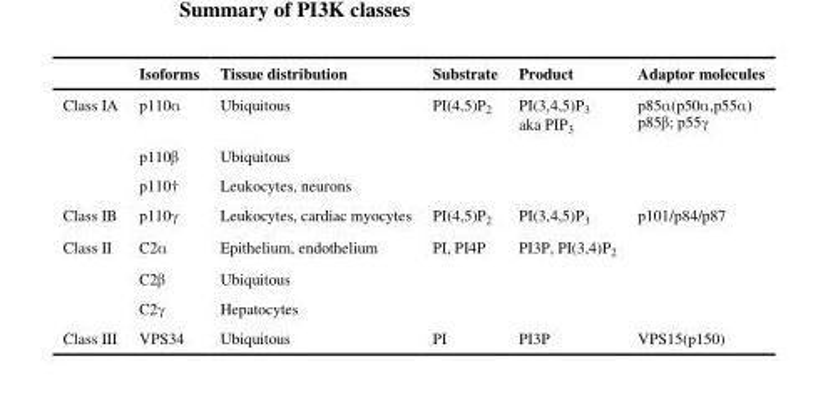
<table><thead><tr><td></td><td>Isoforms</td><td>Tissue distribution</td><td>Substrate</td><td>Product</td><td>Adaptor molecules</td></tr></thead><tbody><tr><td rowspan="3">Class IA</td><td>p110α</td><td>Ubiquitous</td><td>PI(4,5)P<sub>2</sub></td><td>PI(3,4,5)P<sub>3</sub> aka PIP<sub>3</sub></td><td>p85α(p50α,p55α) p85β; p55γ</td></tr><tr><td>p110β</td><td>Ubiquitous</td><td></td><td></td><td></td></tr><tr><td>p110†</td><td>Leukocytes, neurons</td><td></td><td></td><td></td></tr><tr><td>Class IB</td><td>p110γ</td><td>Leukocytes, cardiac myocytes</td><td>PI(4,5)P<sub>2</sub></td><td>PI(3,4,5)P<sub>3</sub></td><td>p101/p84/p87</td></tr><tr><td rowspan="3">Class II</td><td>C2α</td><td>Epithelium, endothelium</td><td>PI, PI4P</td><td>PI3P, PI(3,4)P<sub>2</sub></td><td></td></tr><tr><td>C2β</td><td>Ubiquitous</td><td></td><td></td><td></td></tr><tr><td>C2γ</td><td>Hepatocytes</td><td></td><td></td><td></td></tr><tr><td>Class III</td><td>VPS34</td><td>Ubiquitous</td><td>PI</td><td>PI3P</td><td>VPS15(p150)</td></tr></tbody></table>